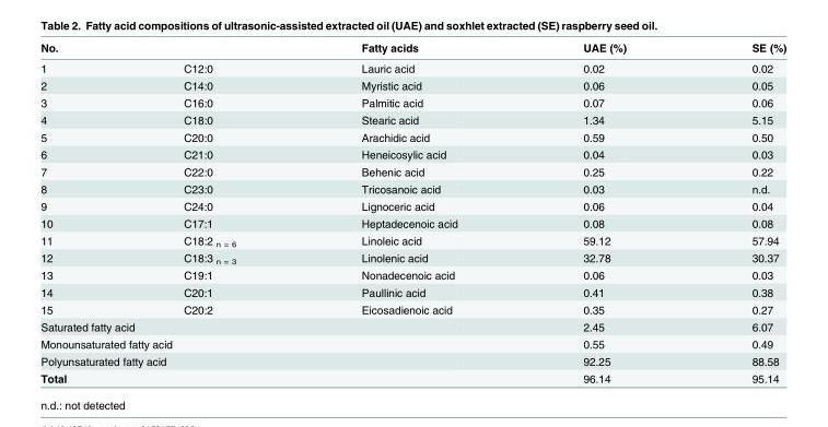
<table><thead><tr><td>No.</td><td></td><td>Fatty acids</td><td>UAE (%)</td><td>SE (%)</td></tr></thead><tbody><tr><td>1</td><td>C12:0</td><td>Lauric acid</td><td>0.02</td><td>0.02</td></tr><tr><td>2</td><td>C14:0</td><td>Myristic acid</td><td>0.06</td><td>0.05</td></tr><tr><td>3</td><td>C16:0</td><td>Palmitic acid</td><td>0.07</td><td>0.06</td></tr><tr><td>4</td><td>C18:0</td><td>Stearic acid</td><td>1.34</td><td>5.15</td></tr><tr><td>5</td><td>C20:0</td><td>Arachidic acid</td><td>0.59</td><td>0.50</td></tr><tr><td>6</td><td>C21:0</td><td>Heneicosylic acid</td><td>0.04</td><td>0.03</td></tr><tr><td>7</td><td>C22:0</td><td>Behenic acid</td><td>0.25</td><td>0.22</td></tr><tr><td>8</td><td>C23:0</td><td>Tricosanoic acid</td><td>0.03</td><td>n.d.</td></tr><tr><td>9</td><td>C24:0</td><td>Lignoceric acid</td><td>0.06</td><td>0.04</td></tr><tr><td>10</td><td>C17:1</td><td>Heptadecenoic acid</td><td>0.08</td><td>0.08</td></tr><tr><td>11</td><td>C18:2 <sub>n = 6</sub></td><td>Linoleic acid</td><td>59.12</td><td>57.94</td></tr><tr><td>12</td><td>C18:3 <sub>n = 3</sub></td><td>Linolenic acid</td><td>32.78</td><td>30.37</td></tr><tr><td>13</td><td>C19:1</td><td>Nonadecenoic acid</td><td>0.06</td><td>0.03</td></tr><tr><td>14</td><td>C20:1</td><td>Paullinic acid</td><td>0.41</td><td>0.38</td></tr><tr><td>15</td><td>C20:2</td><td>Eicosadienoic acid</td><td>0.35</td><td>0.27</td></tr><tr><td colspan="3">Saturated fatty acid</td><td>2.45</td><td>6.07</td></tr><tr><td colspan="3">Monounsaturated fatty acid</td><td>0.55</td><td>0.49</td></tr><tr><td colspan="3">Polyunsaturated fatty acid</td><td>92.25</td><td>88.58</td></tr><tr><td colspan="3">Total</td><td>96.14</td><td>95.14</td></tr></tbody></table>